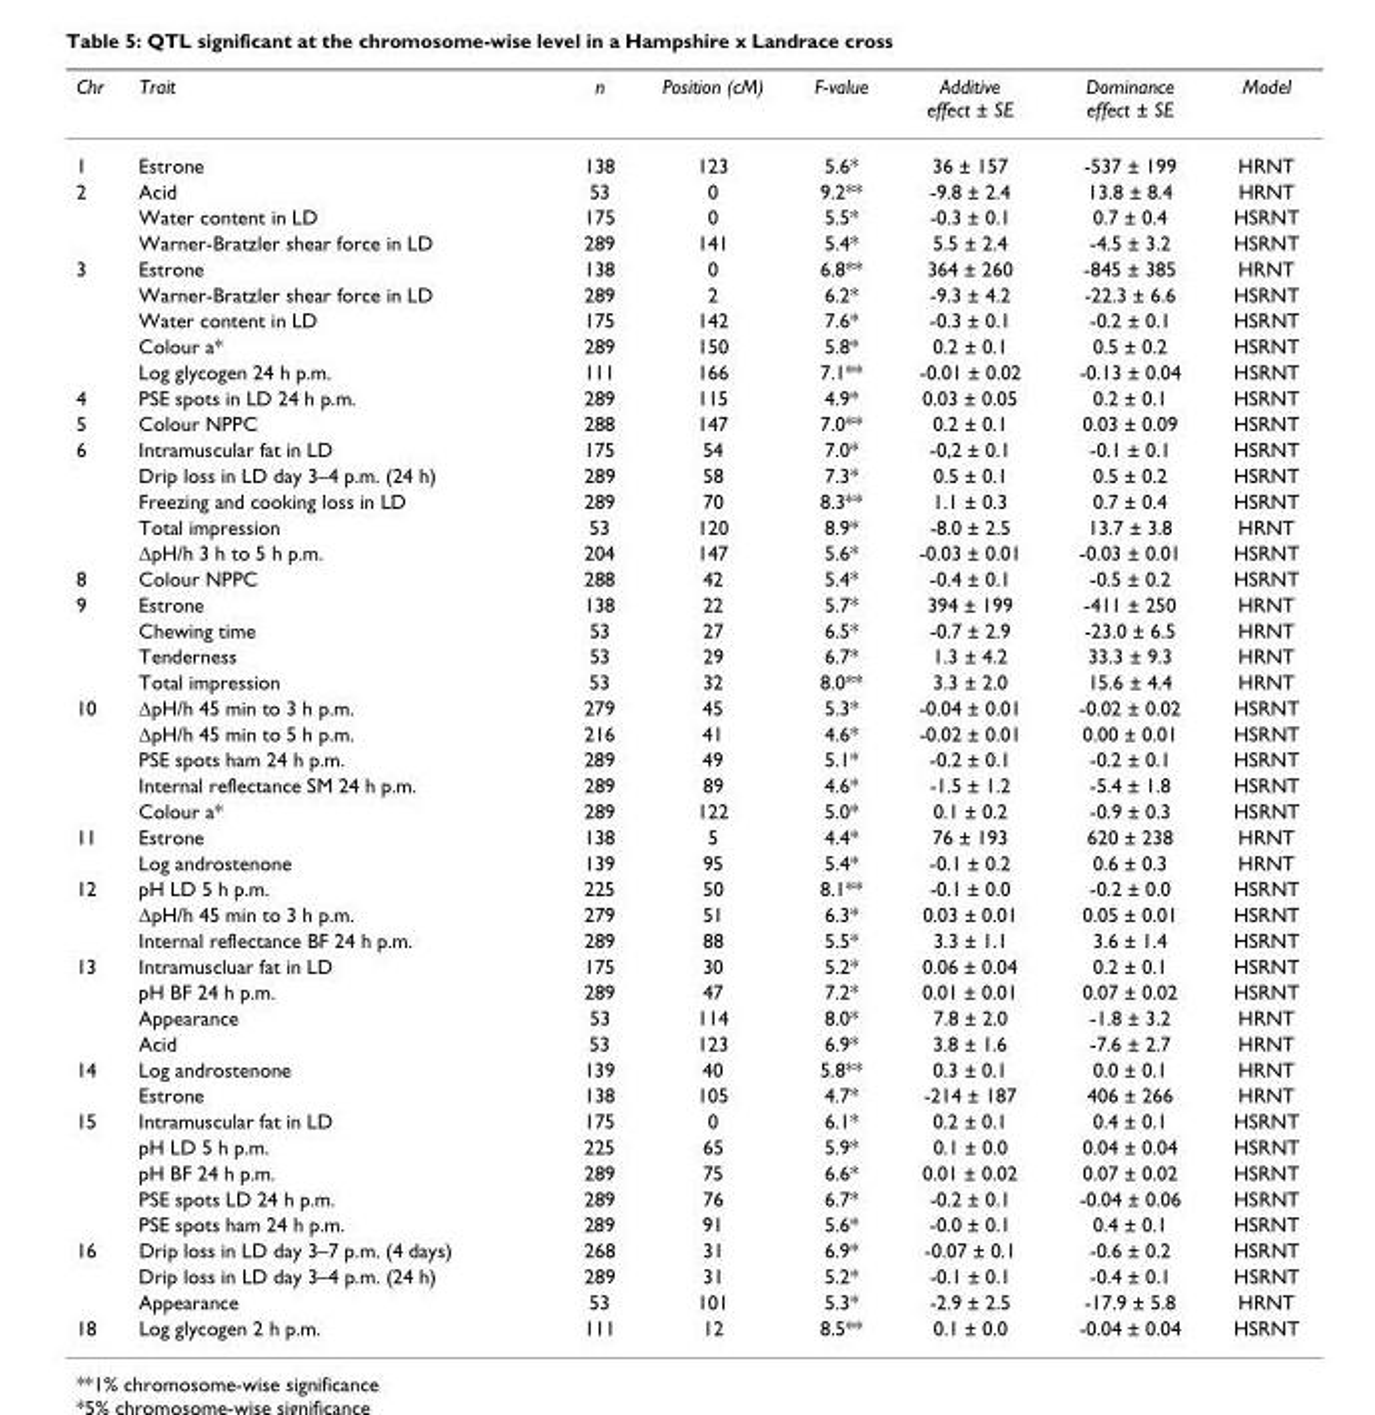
<table><thead><tr><td>Chr</td><td>Trait</td><td>n</td><td>Position (cM)</td><td>F-value</td><td>Additive effect ± SE</td><td>Dominance effect ± SE</td><td>Model</td></tr></thead><tbody><tr><td>1</td><td>Estrone</td><td>138</td><td>123</td><td>5.6*</td><td>36 ± 157</td><td>-537 ± 199</td><td>HRNT</td></tr><tr><td rowspan="3">2</td><td>Acid</td><td>53</td><td>0</td><td>9.2**</td><td>-9.8 ± 2.4</td><td>13.8 ± 8.4</td><td>HRNT</td></tr><tr><td>Water content in LD</td><td>175</td><td>0</td><td>5.5*</td><td>-0.3 ± 0.1</td><td>0.7 ± 0.4</td><td>HSRNT</td></tr><tr><td>Warner-Bratzler shear force in LD</td><td>289</td><td>141</td><td>5.4*</td><td>5.5 ± 2.4</td><td>-4.5 ± 3.2</td><td>HSRNT</td></tr><tr><td rowspan="5">3</td><td>Estrone</td><td>138</td><td>0</td><td>6.8**</td><td>364 ± 260</td><td>-845 ± 385</td><td>HRNT</td></tr><tr><td>Warner-Bratzler shear force in LD</td><td>289</td><td>2</td><td>6.2*</td><td>-9.3 ± 4.2</td><td>-22.3 ± 6.6</td><td>HSRNT</td></tr><tr><td>Water content in LD</td><td>175</td><td>142</td><td>7.6*</td><td>-0.3 ± 0.1</td><td>-0.2 ± 0.1</td><td>HSRNT</td></tr><tr><td>Colour a*</td><td>289</td><td>150</td><td>5.8*</td><td>0.2 ± 0.1</td><td>0.5 ± 0.2</td><td>HSRNT</td></tr><tr><td>Log glycogen 24 h p.m.</td><td>111</td><td>166</td><td>7.1**</td><td>-0.01 ± 0.02</td><td>-0.13 ± 0.04</td><td>HSRNT</td></tr><tr><td>4</td><td>PSE spots in LD 24 h p.m.</td><td>289</td><td>115</td><td>4.9*</td><td>0.03 ± 0.05</td><td>0.2 ± 0.1</td><td>HSRNT</td></tr><tr><td>5</td><td>Colour NPPC</td><td>288</td><td>147</td><td>7.0**</td><td>0.2 ± 0.1</td><td>0.03 ± 0.09</td><td>HSRNT</td></tr><tr><td rowspan="5">6</td><td>Intramuscular fat in LD</td><td>175</td><td>54</td><td>7.0*</td><td>-0,2 ± 0.1</td><td>-0.1 ± 0.1</td><td>HSRNT</td></tr><tr><td>Drip loss in LD day 3–4 p.m. (24 h)</td><td>289</td><td>58</td><td>7.3*</td><td>0.5 ± 0.1</td><td>0.5 ± 0.2</td><td>HSRNT</td></tr><tr><td>Freezing and cooking loss in LD</td><td>289</td><td>70</td><td>8.3**</td><td>1.1 ± 0.3</td><td>0.7 ± 0.4</td><td>HSRNT</td></tr><tr><td>Total impression</td><td>53</td><td>120</td><td>8.9*</td><td>-8.0 ± 2.5</td><td>13.7 ± 3.8</td><td>HRNT</td></tr><tr><td>∆pH/h 3 h to 5 h p.m.</td><td>204</td><td>147</td><td>5.6*</td><td>-0.03 ± 0.01</td><td>-0.03 ± 0.01</td><td>HSRNT</td></tr><tr><td>8</td><td>Colour NPPC</td><td>288</td><td>42</td><td>5.4*</td><td>-0.4 ± 0.1</td><td>-0.5 ± 0.2</td><td>HSRNT</td></tr><tr><td rowspan="4">9</td><td>Estrone</td><td>138</td><td>22</td><td>5.7*</td><td>394 ± 199</td><td>-411 ± 250</td><td>HRNT</td></tr><tr><td>Chewing time</td><td>53</td><td>27</td><td>6.5*</td><td>-0.7 ± 2.9</td><td>-23.0 ± 6.5</td><td>HRNT</td></tr><tr><td>Tenderness</td><td>53</td><td>29</td><td>6.7*</td><td>1.3 ± 4.2</td><td>33.3 ± 9.3</td><td>HRNT</td></tr><tr><td>Total impression</td><td>53</td><td>32</td><td>8.0**</td><td>3.3 ± 2.0</td><td>15.6 ± 4.4</td><td>HRNT</td></tr><tr><td rowspan="5">10</td><td>∆pH/h 45 min to 3 h p.m.</td><td>279</td><td>45</td><td>5.3*</td><td>-0.04 ± 0.01</td><td>-0.02 ± 0.02</td><td>HSRNT</td></tr><tr><td>∆pH/h 45 min to 5 h p.m.</td><td>216</td><td>41</td><td>4.6*</td><td>-0.02 ± 0.01</td><td>0.00 ± 0.01</td><td>HSRNT</td></tr><tr><td>PSE spots ham 24 h p.m.</td><td>289</td><td>49</td><td>5.1*</td><td>-0.2 ± 0.1</td><td>-0.2 ± 0.1</td><td>HSRNT</td></tr><tr><td>Internal reflectance SM 24 h p.m.</td><td>289</td><td>89</td><td>4.6*</td><td>-1.5 ± 1.2</td><td>-5.4 ± 1.8</td><td>HSRNT</td></tr><tr><td>Colour a*</td><td>289</td><td>122</td><td>5.0*</td><td>0.1 ± 0.2</td><td>-0.9 ± 0.3</td><td>HSRNT</td></tr><tr><td rowspan="2">11</td><td>Estrone</td><td>138</td><td>5</td><td>4.4*</td><td>76 ± 193</td><td>620 ± 238</td><td>HRNT</td></tr><tr><td>Log androstenone</td><td>139</td><td>95</td><td>5.4*</td><td>-0.1 ± 0.2</td><td>0.6 ± 0.3</td><td>HRNT</td></tr><tr><td rowspan="3">12</td><td>pH LD 5 h p.m.</td><td>225</td><td>50</td><td>8.1**</td><td>-0.1 ± 0.0</td><td>-0.2 ± 0.0</td><td>HSRNT</td></tr><tr><td>∆pH/h 45 min to 3 h p.m.</td><td>279</td><td>51</td><td>6.3*</td><td>0.03 ± 0.01</td><td>0.05 ± 0.01</td><td>HSRNT</td></tr><tr><td>Internal reflectance BF 24 h p.m.</td><td>289</td><td>88</td><td>5.5*</td><td>3.3 ± 1.1</td><td>3.6 ± 1.4</td><td>HSRNT</td></tr><tr><td rowspan="4">13</td><td>Intramuscluar fat in LD</td><td>175</td><td>30</td><td>5.2*</td><td>0.06 ± 0.04</td><td>0.2 ± 0.1</td><td>HSRNT</td></tr><tr><td>pH BF 24 h p.m.</td><td>289</td><td>47</td><td>7.2*</td><td>0.01 ± 0.01</td><td>0.07 ± 0.02</td><td>HSRNT</td></tr><tr><td>Appearance</td><td>53</td><td>114</td><td>8.0*</td><td>7.8 ± 2.0</td><td>-1.8 ± 3.2</td><td>HRNT</td></tr><tr><td>Acid</td><td>53</td><td>123</td><td>6.9*</td><td>3.8 ± 1.6</td><td>-7.6 ± 2.7</td><td>HRNT</td></tr><tr><td rowspan="2">14</td><td>Log androstenone</td><td>139</td><td>40</td><td>5.8**</td><td>0.3 ± 0.1</td><td>0.0 ± 0.1</td><td>HRNT</td></tr><tr><td>Estrone</td><td>138</td><td>105</td><td>4.7*</td><td>-214 ± 187</td><td>406 ± 266</td><td>HRNT</td></tr><tr><td rowspan="5">15</td><td>Intramuscular fat in LD</td><td>175</td><td>0</td><td>6.1*</td><td>0.2 ± 0.1</td><td>0.4 ± 0.1</td><td>HSRNT</td></tr><tr><td>pH LD 5 h p.m.</td><td>225</td><td>65</td><td>5.9*</td><td>0.1 ± 0.0</td><td>0.04 ± 0.04</td><td>HSRNT</td></tr><tr><td>pH BF 24 h p.m.</td><td>289</td><td>75</td><td>6.6*</td><td>0.01 ± 0.02</td><td>0.07 ± 0.02</td><td>HSRNT</td></tr><tr><td>PSE spots LD 24 h p.m.</td><td>289</td><td>76</td><td>6.7*</td><td>-0.2 ± 0.1</td><td>-0.04 ± 0.06</td><td>HSRNT</td></tr><tr><td>PSE spots ham 24 h p.m.</td><td>289</td><td>91</td><td>5.6*</td><td>-0.0 ± 0.1</td><td>0.4 ± 0.1</td><td>HSRNT</td></tr><tr><td rowspan="3">16</td><td>Drip loss in LD day 3–7 p.m. (4 days)</td><td>268</td><td>31</td><td>6.9*</td><td>-0.07 ± 0.1</td><td>-0.6 ± 0.2</td><td>HSRNT</td></tr><tr><td>Drip loss in LD day 3–4 p.m. (24 h)</td><td>289</td><td>31</td><td>5.2*</td><td>-0.1 ± 0.1</td><td>-0.4 ± 0.1</td><td>HSRNT</td></tr><tr><td>Appearance</td><td>53</td><td>101</td><td>5.3*</td><td>-2.9 ± 2.5</td><td>-17.9 ± 5.8</td><td>HRNT</td></tr><tr><td>18</td><td>Log glycogen 2 h p.m.</td><td>111</td><td>12</td><td>8.5**</td><td>0.1 ± 0.0</td><td>-0.04 ± 0.04</td><td>HSRNT</td></tr></tbody></table>